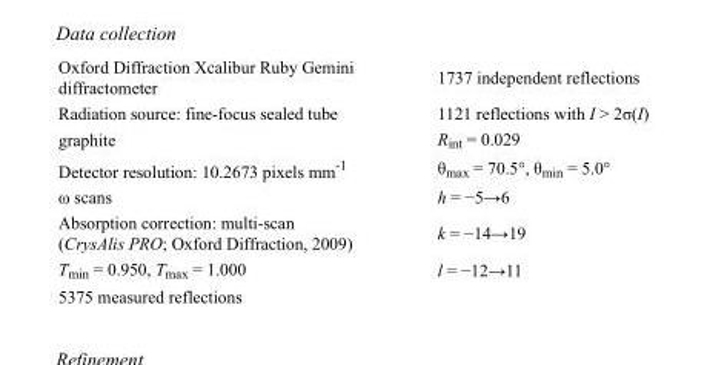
<table><tbody><tr><td>Oxford Diffraction Xcalibur Ruby Gemini diffractometer</td><td>1737 independent reflections</td></tr><tr><td>Radiation source: fine-focus sealed tube</td><td>1121 reflections with I &gt; 2σ(I)</td></tr><tr><td>graphite</td><td>R<sub>int</sub> = 0.029</td></tr><tr><td>Detector resolution: 10.2673 pixels mm<sup>-1</sup></td><td>θ<sub>max</sub> = 70.5°, θ<sub>min</sub> = 5.0°</td></tr><tr><td>ω scans</td><td>h = −5→6</td></tr><tr><td>Absorption correction: multi-scan (CrysAlis PRO; Oxford Diffraction, 2009)</td><td>k = −14→19</td></tr><tr><td>T<sub>min</sub> = 0.950, T<sub>max</sub> = 1.000</td><td>l = −12→11</td></tr><tr><td>5375 measured reflections</td><td></td></tr></tbody></table>